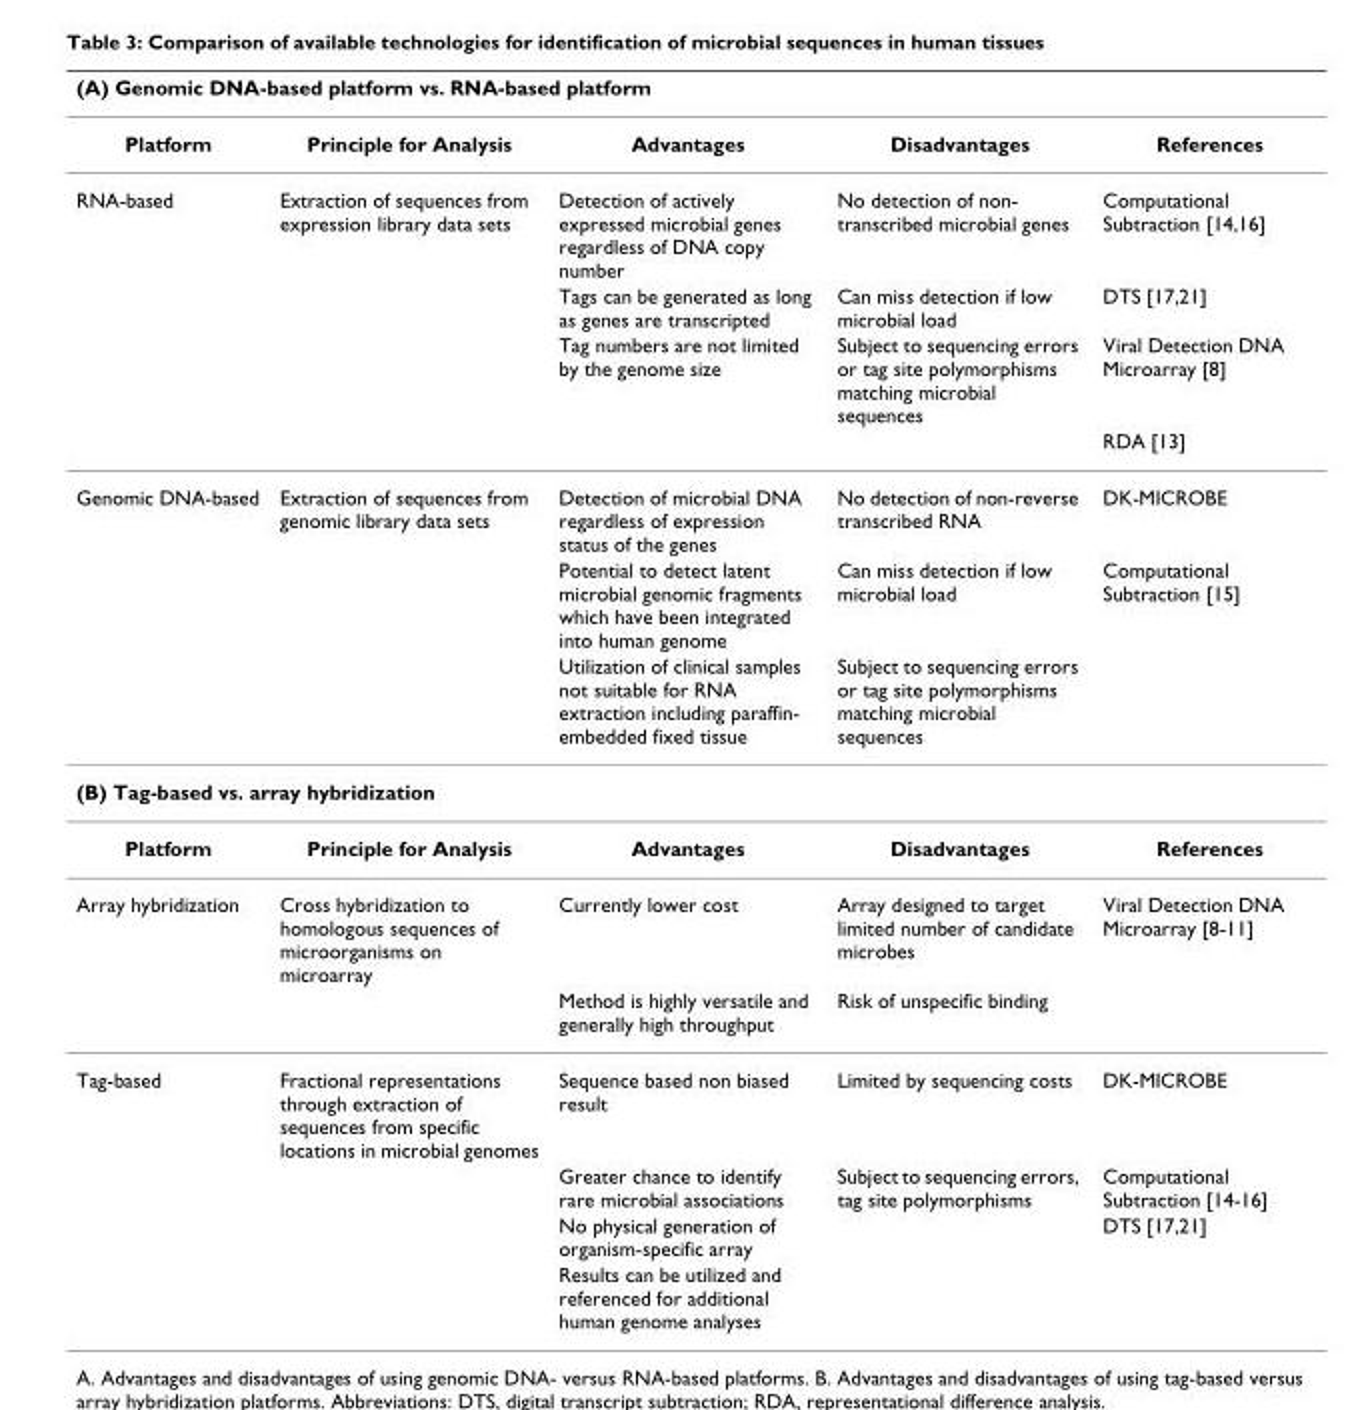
<table><thead><tr><td colspan="5">(A) Genomic DNA-based platform vs. RNA-based platform</td></tr><tr><td>Platform</td><td>Principle for Analysis</td><td>Advantages</td><td>Disadvantages</td><td>References</td></tr></thead><tbody><tr><td rowspan="4">RNA-based</td><td>Extraction of sequences from expression library data sets</td><td>Detection of actively expressed microbial genes regardless of DNA copy number</td><td>No detection of non- transcribed microbial genes</td><td>Computational Subtraction [14,16]</td></tr><tr><td></td><td>Tags can be generated as long as genes are transcripted</td><td>Can miss detection if low microbial load</td><td>DTS [17,21]</td></tr><tr><td></td><td>Tag numbers are not limited by the genome size</td><td>Subject to sequencing errors or tag site polymorphisms matching microbial sequences</td><td>Viral Detection DNA Microarray [8]</td></tr><tr><td></td><td></td><td></td><td>RDA [13]</td></tr><tr><td rowspan="3">Genomic DNA-based</td><td>Extraction of sequences from genomic library data sets</td><td>Detection of microbial DNA regardless of expression status of the genes</td><td>No detection of non-reverse transcribed RNA</td><td>DK-MICROBE</td></tr><tr><td></td><td>Potential to detect latent microbial genomic fragments which have been integrated into human genome</td><td>Can miss detection if low microbial load</td><td>Computational Subtraction [15]</td></tr><tr><td></td><td>Utilization of clinical samples not suitable for RNA extraction including paraffin- embedded fixed tissue</td><td>Subject to sequencing errors or tag site polymorphisms matching microbial sequences</td><td></td></tr><tr><td colspan="5">(B) Tag-based vs. array hybridization</td></tr><tr><td>Platform</td><td>Principle for Analysis</td><td>Advantages</td><td>Disadvantages</td><td>References</td></tr><tr><td rowspan="2">Array hybridization</td><td>Cross hybridization to homologous sequences of microorganisms on microarray</td><td>Currently lower cost</td><td>Array designed to target limited number of candidate microbes</td><td>Viral Detection DNA Microarray [8-11]</td></tr><tr><td></td><td>Method is highly versatile and generally high throughput</td><td>Risk of unspecific binding</td><td></td></tr><tr><td rowspan="4">Tag-based</td><td>Fractional representations through extraction of sequences from specific locations in microbial genomes</td><td>Sequence based non biased result</td><td>Limited by sequencing costs</td><td>DK-MICROBE</td></tr><tr><td></td><td>Greater chance to identify rare microbial associations</td><td>Subject to sequencing errors, tag site polymorphisms</td><td>Computational Subtraction [14-16]</td></tr><tr><td></td><td>No physical generation of organism-specific array</td><td></td><td>DTS [17,21]</td></tr><tr><td></td><td>Results can be utilized and referenced for additional human genome analyses</td><td></td><td></td></tr></tbody></table>